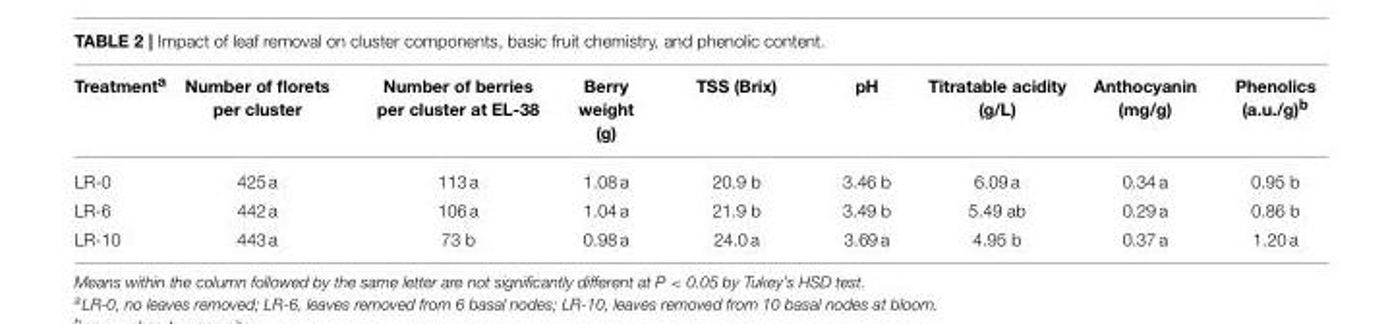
<table><thead><tr><td>Treatment<sup>a</sup></td><td>Number of florets per cluster</td><td>Number of berries per cluster at EL-38</td><td>Berry weight (g)</td><td>TSS (Brix)</td><td>pH</td><td>Titratable acidity (g/L)</td><td>Anthocyanin (mg/g)</td><td>Phenolics (a.u./g)<sup>b</sup></td></tr></thead><tbody><tr><td>LR-0</td><td>425 a</td><td>113 a</td><td>1.08 a</td><td>20.9 b</td><td>3.46 b</td><td>6.09 a</td><td>0.34 a</td><td>0.95 b</td></tr><tr><td>LR-6</td><td>442 a</td><td>106 a</td><td>1.04 a</td><td>21.9 b</td><td>3.49 b</td><td>5.49 ab</td><td>0.29 a</td><td>0.86 b</td></tr><tr><td>LR-10</td><td>443 a</td><td>73 b</td><td>0.98 a</td><td>24.0 a</td><td>3.69 a</td><td>4.95 b</td><td>0.37 a</td><td>1.20 a</td></tr></tbody></table>